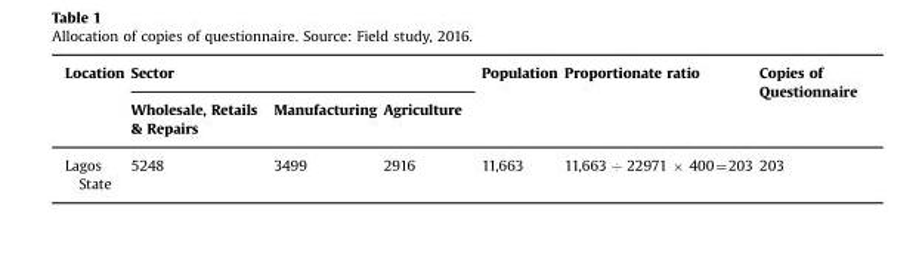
<table><thead><tr><td rowspan="2">Location</td><td colspan="3">Sector</td><td rowspan="2">Population</td><td rowspan="2">Proportionate ratio</td><td rowspan="2">Copies of Questionnaire</td></tr><tr><td>Wholesale, Retails &amp; Repairs</td><td>Manufacturing</td><td>Agriculture</td></tr></thead><tbody><tr><td>Lagos State</td><td>5248</td><td>3499</td><td>2916</td><td>11,663</td><td>11,663 ÷ 22971 × 400=203</td><td>203</td></tr></tbody></table>